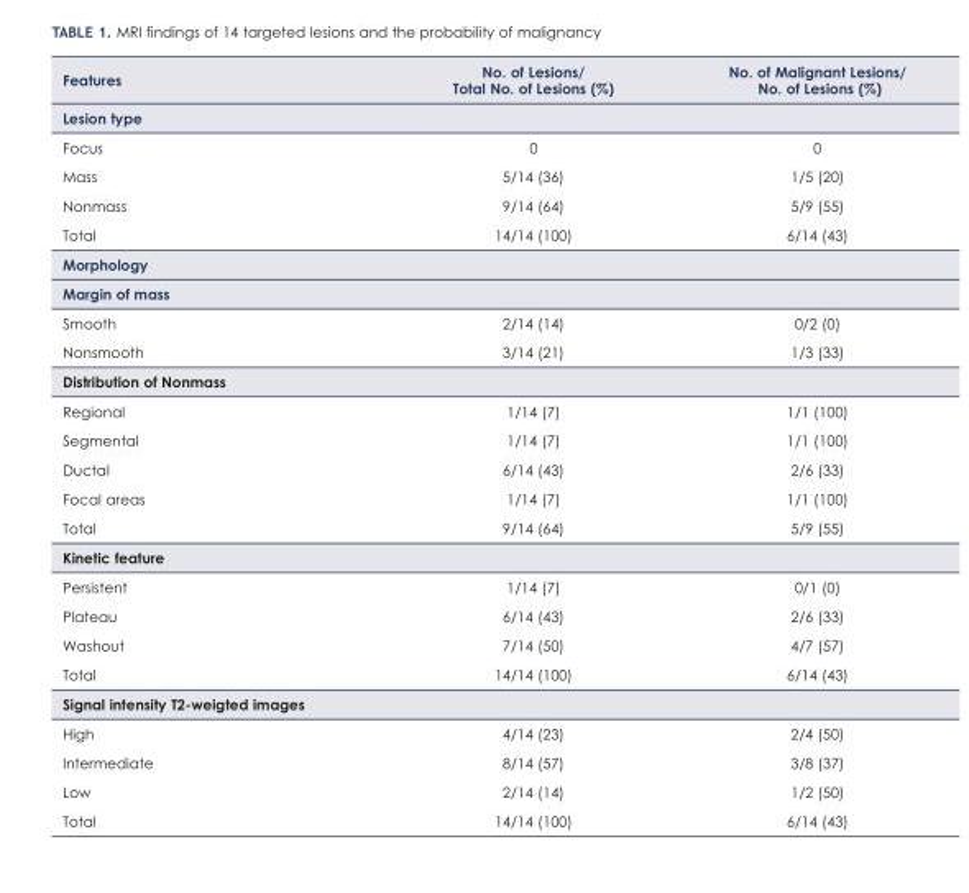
<table><thead><tr><td>Features</td><td>No. of Lesions/ Total No. of Lesions (%)</td><td>No. of Malignant Lesions/ No. of Lesions (%)</td></tr></thead><tbody><tr><td colspan="3">Lesion type</td></tr><tr><td>Focus</td><td>0</td><td>0</td></tr><tr><td>Mass</td><td>5/14 (36)</td><td>1/5 (20)</td></tr><tr><td>Nonmass</td><td>9/14 (64)</td><td>5/9 (55)</td></tr><tr><td>Total</td><td>14/14 (100)</td><td>6/14 (43)</td></tr><tr><td colspan="3">Morphology</td></tr><tr><td colspan="3">Margin of mass</td></tr><tr><td>Smooth</td><td>2/14 (14)</td><td>0/2 (0)</td></tr><tr><td>Nonsmooth</td><td>3/14 (21)</td><td>1/3 (33)</td></tr><tr><td colspan="3">Distribution of Nonmass</td></tr><tr><td>Regional</td><td>1/14 (7)</td><td>1/1 (100)</td></tr><tr><td>Segmental</td><td>1/14 (7)</td><td>1/1 (100)</td></tr><tr><td>Ductal</td><td>6/14 (43)</td><td>2/6 (33)</td></tr><tr><td>Focal areas</td><td>1/14 (7)</td><td>1/1 (100)</td></tr><tr><td>Total</td><td>9/14 (64)</td><td>5/9 (55)</td></tr><tr><td colspan="3">Kinetic feature</td></tr><tr><td>Persistent</td><td>1/14 (7)</td><td>0/1 (0)</td></tr><tr><td>Plateau</td><td>6/14 (43)</td><td>2/6 (33)</td></tr><tr><td>Washout</td><td>7/14 (50)</td><td>4/7 (57)</td></tr><tr><td>Total</td><td>14/14 (100)</td><td>6/14 (43)</td></tr><tr><td colspan="3">Signal intensity T2-weigted images</td></tr><tr><td>High</td><td>4/14 (23)</td><td>2/4 (50)</td></tr><tr><td>Intermediate</td><td>8/14 (57)</td><td>3/8 (37)</td></tr><tr><td>Low</td><td>2/14 (14)</td><td>1/2 (50)</td></tr><tr><td>Total</td><td>14/14 (100)</td><td>6/14 (43)</td></tr></tbody></table>